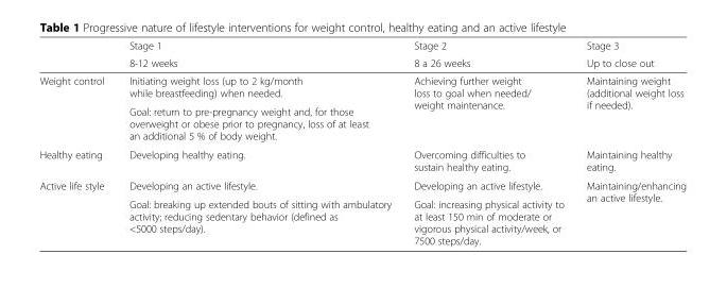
<table><thead><tr><td rowspan="2"></td><td rowspan="2">Stage 1 8-12 weeks</td><td rowspan="2">Stage 2 8 a 26 weeks</td><td rowspan="2">Stage 3 Up to close out</td></tr><tr></tr></thead><tbody><tr><td rowspan="2">Weight control</td><td>Initiating weight loss (up to 2 kg/month while breastfeeding) when needed.</td><td rowspan="2">Achieving further weight loss to goal when needed/ weight maintenance.</td><td rowspan="2">Maintaining weight (additional weight loss if needed).</td></tr><tr><td>Goal: return to pre-pregnancy weight and, for those overweight or obese prior to pregnancy, loss of at least an additional 5 % of body weight.</td></tr><tr><td>Healthy eating</td><td>Developing healthy eating.</td><td>Overcoming difficulties to sustain healthy eating.</td><td>Maintaining healthy eating.</td></tr><tr><td rowspan="2">Active life style</td><td>Developing an active lifestyle.</td><td>Developing an active lifestyle.</td><td rowspan="2">Maintaining/enhancing an active lifestyle.</td></tr><tr><td>Goal: breaking up extended bouts of sitting with ambulatory activity; reducing sedentary behavior (defined as &lt;5000 steps/day).</td><td>Goal: increasing physical activity to at least 150 min of moderate or vigorous physical activity/week, or 7500 steps/day.</td></tr></tbody></table>